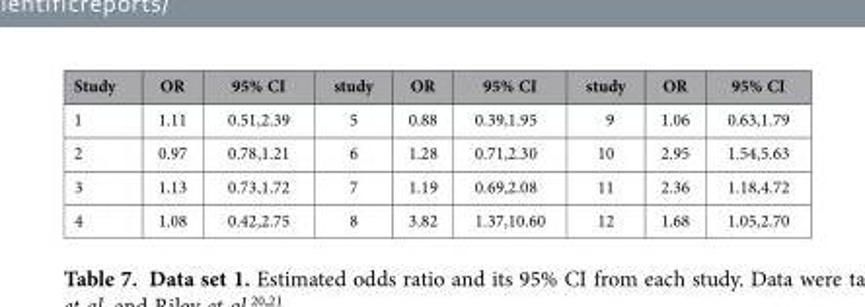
<table><thead><tr><td>Study</td><td>OR</td><td>95% CI</td><td>study</td><td>OR</td><td>95% CI</td><td>study</td><td>OR</td><td>95% CI</td></tr></thead><tbody><tr><td>1</td><td>1.11</td><td>0.51,2.39</td><td>5</td><td>0.88</td><td>0.39,1.95</td><td>9</td><td>1.06</td><td>0.63,1.79</td></tr><tr><td>2</td><td>0.97</td><td>0.78,1.21</td><td>6</td><td>1.28</td><td>0.71,2.30</td><td>10</td><td>2.95</td><td>1.54,5.63</td></tr><tr><td>3</td><td>1.13</td><td>0.73,1.72</td><td>7</td><td>1.19</td><td>0.69,2.08</td><td>11</td><td>2.36</td><td>1.18,4.72</td></tr><tr><td>4</td><td>1.08</td><td>0.42,2.75</td><td>8</td><td>3.82</td><td>1.37,10.60</td><td>12</td><td>1.68</td><td>1.05,2.70</td></tr></tbody></table>